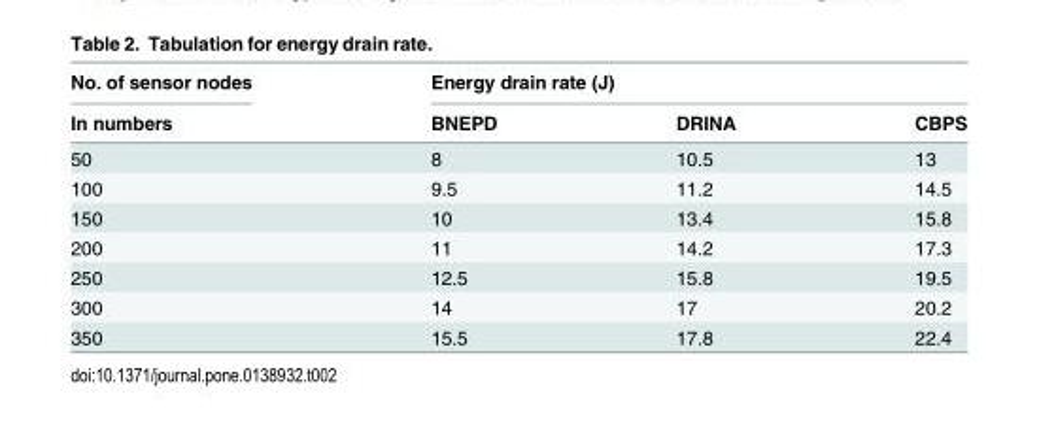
<table><thead><tr><td rowspan="2">No. of sensor nodes In numbers</td><td colspan="3">Energy drain rate (J)</td></tr><tr><td>BNEPD</td><td>DRINA</td><td>CBPS</td></tr></thead><tbody><tr><td>50</td><td>8</td><td>10.5</td><td>13</td></tr><tr><td>100</td><td>9.5</td><td>11.2</td><td>14.5</td></tr><tr><td>150</td><td>10</td><td>13.4</td><td>15.8</td></tr><tr><td>200</td><td>11</td><td>14.2</td><td>17.3</td></tr><tr><td>250</td><td>12.5</td><td>15.8</td><td>19.5</td></tr><tr><td>300</td><td>14</td><td>17</td><td>20.2</td></tr><tr><td>350</td><td>15.5</td><td>17.8</td><td>22.4</td></tr></tbody></table>